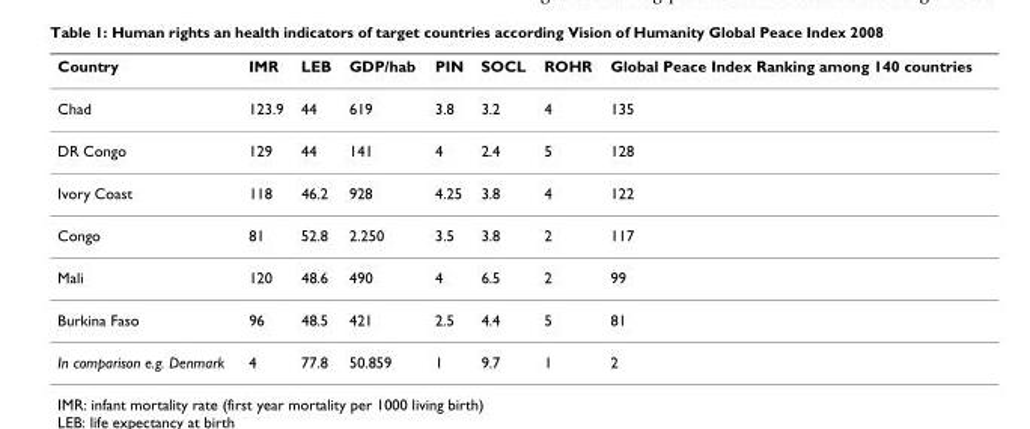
<table><thead><tr><td>Country</td><td>IMR</td><td>LEB</td><td>GDP/hab</td><td>PIN</td><td>SOCL</td><td>ROHR</td><td>Global Peace Index Ranking among 140 countries</td></tr></thead><tbody><tr><td>Chad</td><td>123.9</td><td>44</td><td>619</td><td>3.8</td><td>3.2</td><td>4</td><td>135</td></tr><tr><td>DR Congo</td><td>129</td><td>44</td><td>141</td><td>4</td><td>2.4</td><td>5</td><td>128</td></tr><tr><td>Ivory Coast</td><td>118</td><td>46.2</td><td>928</td><td>4.25</td><td>3.8</td><td>4</td><td>122</td></tr><tr><td>Congo</td><td>81</td><td>52.8</td><td>2.250</td><td>3.5</td><td>3.8</td><td>2</td><td>117</td></tr><tr><td>Mali</td><td>120</td><td>48.6</td><td>490</td><td>4</td><td>6.5</td><td>2</td><td>99</td></tr><tr><td>Burkina Faso</td><td>96</td><td>48.5</td><td>421</td><td>2.5</td><td>4.4</td><td>5</td><td>81</td></tr><tr><td>In comparison e.g. Denmark</td><td>4</td><td>77.8</td><td>50.859</td><td>1</td><td>9.7</td><td>1</td><td>2</td></tr></tbody></table>